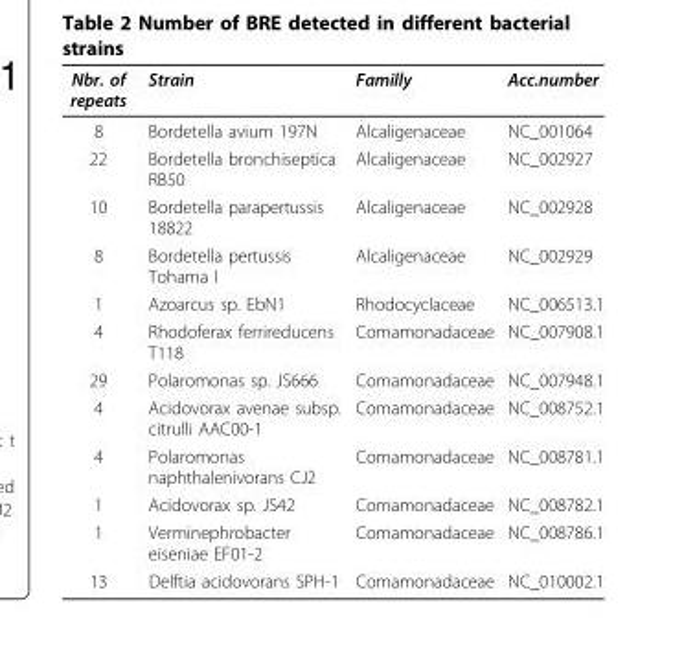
<table><thead><tr><td>Nbr. of repeats</td><td>Strain</td><td>Familly</td><td>Acc.number</td></tr></thead><tbody><tr><td>8</td><td>Bordetella avium 197N</td><td>Alcaligenaceae</td><td>NC_001064</td></tr><tr><td>22</td><td>Bordetella bronchiseptica RB50</td><td>Alcaligenaceae</td><td>NC_002927</td></tr><tr><td>10</td><td>Bordetella parapertussis 18822</td><td>Alcaligenaceae</td><td>NC_002928</td></tr><tr><td>8</td><td>Bordetella pertussis Tohama I</td><td>Alcaligenaceae</td><td>NC_002929</td></tr><tr><td>1</td><td>Azoarcus sp. EbN1</td><td>Rhodocyclaceae</td><td>NC_006513.1</td></tr><tr><td>4</td><td>Rhodoferax ferrireducens T118</td><td>Comamonadaceae</td><td>NC_007908.1</td></tr><tr><td>29</td><td>Polaromonas sp. JS666</td><td>Comamonadaceae</td><td>NC_007948.1</td></tr><tr><td>4</td><td>Acidovorax avenae subsp. citrulli AAC00-1</td><td>Comamonadaceae</td><td>NC_008752.1</td></tr><tr><td>4</td><td>Polaromonas naphthalenivorans CJ2</td><td>Comamonadaceae</td><td>NC_008781.1</td></tr><tr><td>1</td><td>Acidovorax sp. JS42</td><td>Comamonadaceae</td><td>NC_008782.1</td></tr><tr><td>1</td><td>Verminephrobacter eiseniae EF01-2</td><td>Comamonadaceae</td><td>NC_008786.1</td></tr><tr><td>13</td><td>Delftia acidovorans SPH-1</td><td>Comamonadaceae</td><td>NC_010002.1</td></tr></tbody></table>